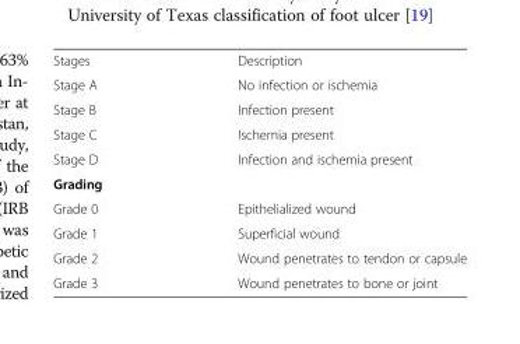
<table><tbody><tr><td>Stages</td><td>Description</td></tr><tr><td>Stage A</td><td>No infection or ischemia</td></tr><tr><td>Stage B</td><td>Infection present</td></tr><tr><td>Stage C</td><td>Ischemia present</td></tr><tr><td>Stage D</td><td>Infection and ischemia present</td></tr><tr><td colspan="2">Grading</td></tr><tr><td>Grade 0</td><td>Epithelialized wound</td></tr><tr><td>Grade 1</td><td>Superficial wound</td></tr><tr><td>Grade 2</td><td>Wound penetrates to tendon or capsule</td></tr><tr><td>Grade 3</td><td>Wound penetrates to bone or joint</td></tr></tbody></table>